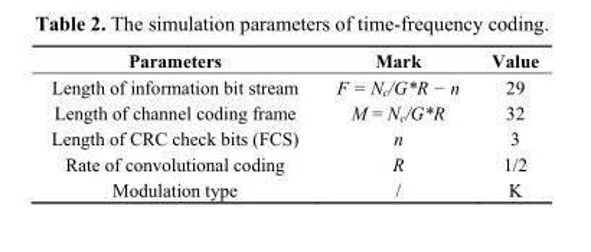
<table><thead><tr><td>Parameters</td><td>Mark</td><td>Value</td></tr></thead><tbody><tr><td>Length of information bit stream</td><td>F = N<sub>c</sub>/G*R − n</td><td>29</td></tr><tr><td>Length of channel coding frame</td><td>M = N<sub>c</sub>/G*R</td><td>32</td></tr><tr><td>Length of CRC check bits (FCS)</td><td>n</td><td>3</td></tr><tr><td>Rate of convolutional coding</td><td>R</td><td>1/2</td></tr><tr><td>Modulation type</td><td>/</td><td>K</td></tr></tbody></table>